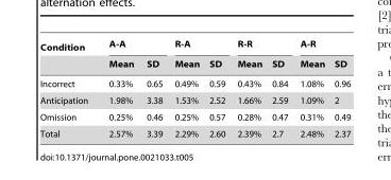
<table><thead><tr><td rowspan="2">Condition</td><td colspan="2">A-A</td><td colspan="2">R-A</td><td colspan="2">R-R</td><td colspan="2">A-R</td></tr><tr><td>Mean</td><td>SD</td><td>Mean</td><td>SD</td><td>Mean</td><td>SD</td><td>Mean</td><td>SD</td></tr></thead><tbody><tr><td>Incorrect</td><td>0.33%</td><td>0.65</td><td>0.49%</td><td>0.59</td><td>0.43%</td><td>0.84</td><td>1.08%</td><td>0.96</td></tr><tr><td>Anticipation</td><td>1.98%</td><td>3.38</td><td>1.53%</td><td>2.52</td><td>1.66%</td><td>2.59</td><td>1.09%</td><td>2</td></tr><tr><td>Omission</td><td>0.25%</td><td>0.46</td><td>0.25%</td><td>0.57</td><td>0.28%</td><td>0.47</td><td>0.31%</td><td>0.49</td></tr><tr><td>Total</td><td>2.57%</td><td>3.39</td><td>2.29%</td><td>2.60</td><td>2.39%</td><td>2.7</td><td>2.48%</td><td>2.37</td></tr></tbody></table>